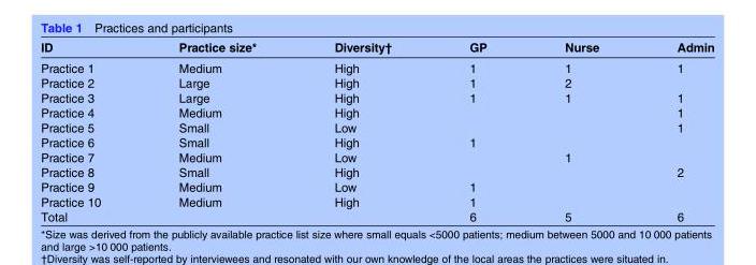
<table><thead><tr><td>ID</td><td>Practice size*</td><td>Diversity†</td><td>GP</td><td>Nurse</td><td>Admin</td></tr></thead><tbody><tr><td>Practice 1</td><td>Medium</td><td>High</td><td>1</td><td>1</td><td>1</td></tr><tr><td>Practice 2</td><td>Large</td><td>High</td><td>1</td><td>2</td><td></td></tr><tr><td>Practice 3</td><td>Large</td><td>High</td><td>1</td><td>1</td><td>1</td></tr><tr><td>Practice 4</td><td>Medium</td><td>High</td><td></td><td></td><td>1</td></tr><tr><td>Practice 5</td><td>Small</td><td>Low</td><td></td><td></td><td>1</td></tr><tr><td>Practice 6</td><td>Small</td><td>High</td><td>1</td><td></td><td></td></tr><tr><td>Practice 7</td><td>Medium</td><td>Low</td><td></td><td>1</td><td></td></tr><tr><td>Practice 8</td><td>Small</td><td>High</td><td></td><td></td><td>2</td></tr><tr><td>Practice 9</td><td>Medium</td><td>Low</td><td>1</td><td></td><td></td></tr><tr><td>Practice 10</td><td>Medium</td><td>High</td><td>1</td><td></td><td></td></tr><tr><td>Total</td><td></td><td></td><td>6</td><td>5</td><td>6</td></tr></tbody></table>